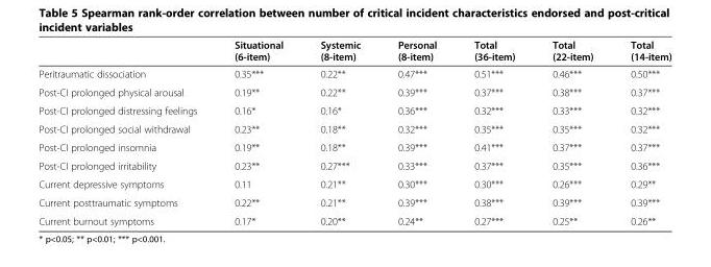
<table><thead><tr><td></td><td>Situational (6-item)</td><td>Systemic (8-item)</td><td>Personal (8-item)</td><td>Total (36-item)</td><td>Total (22-item)</td><td>Total (14-item)</td></tr></thead><tbody><tr><td>Peritraumatic dissociation</td><td>0.35***</td><td>0.22**</td><td>0.47***</td><td>0.51***</td><td>0.46***</td><td>0.50***</td></tr><tr><td>Post-CI prolonged physical arousal</td><td>0.19**</td><td>0.22**</td><td>0.39***</td><td>0.37***</td><td>0.38***</td><td>0.37***</td></tr><tr><td>Post-CI prolonged distressing feelings</td><td>0.16*</td><td>0.16*</td><td>0.36***</td><td>0.32***</td><td>0.33***</td><td>0.32***</td></tr><tr><td>Post-CI prolonged social withdrawal</td><td>0.23**</td><td>0.18**</td><td>0.32***</td><td>0.35***</td><td>0.35***</td><td>0.32***</td></tr><tr><td>Post-CI prolonged insomnia</td><td>0.19**</td><td>0.18**</td><td>0.39***</td><td>0.41***</td><td>0.37***</td><td>0.37***</td></tr><tr><td>Post-CI prolonged irritability</td><td>0.23**</td><td>0.27***</td><td>0.33***</td><td>0.37***</td><td>0.35***</td><td>0.36***</td></tr><tr><td>Current depressive symptoms</td><td>0.11</td><td>0.21**</td><td>0.30***</td><td>0.30***</td><td>0.26***</td><td>0.29**</td></tr><tr><td>Current posttraumatic symptoms</td><td>0.22**</td><td>0.21**</td><td>0.39***</td><td>0.38***</td><td>0.39***</td><td>0.39***</td></tr><tr><td>Current burnout symptoms</td><td>0.17*</td><td>0.20**</td><td>0.24**</td><td>0.27***</td><td>0.25**</td><td>0.26**</td></tr></tbody></table>